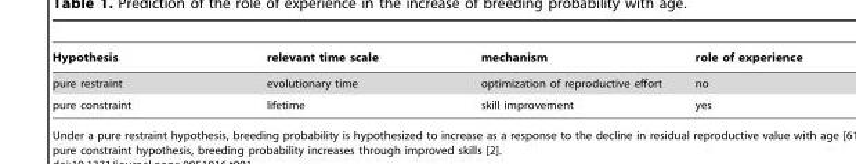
<table><thead><tr><td>Hypothesis</td><td>relevant time scale</td><td>mechanism</td><td>role of experience</td></tr></thead><tbody><tr><td>pure restraint</td><td>evolutionary time</td><td>optimization of reproductive effort</td><td>no</td></tr><tr><td>pure constraint</td><td>lifetime</td><td>skill improvement</td><td>yes</td></tr></tbody></table>